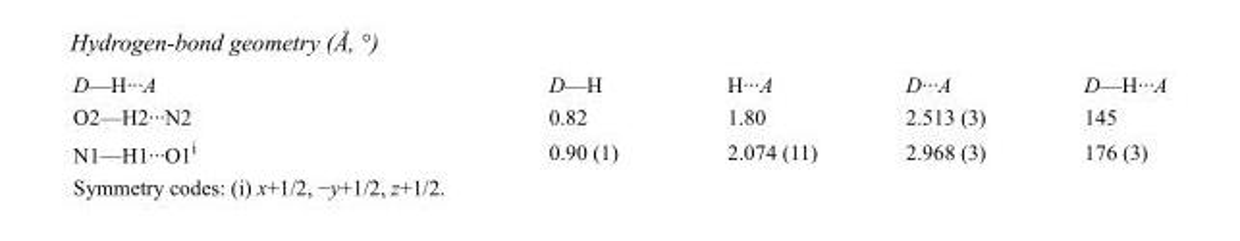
<table><tbody><tr><td>D—H···A</td><td>D—H</td><td>H···A</td><td>D···A</td><td>D—H···A</td></tr><tr><td>O2—H2···N2</td><td>0.82</td><td>1.80</td><td>2.513 (3)</td><td>145</td></tr><tr><td>N1—H1···O1<sup>i</sup></td><td>0.90 (1)</td><td>2.074 (11)</td><td>2.968 (3)</td><td>176 (3)</td></tr></tbody></table>